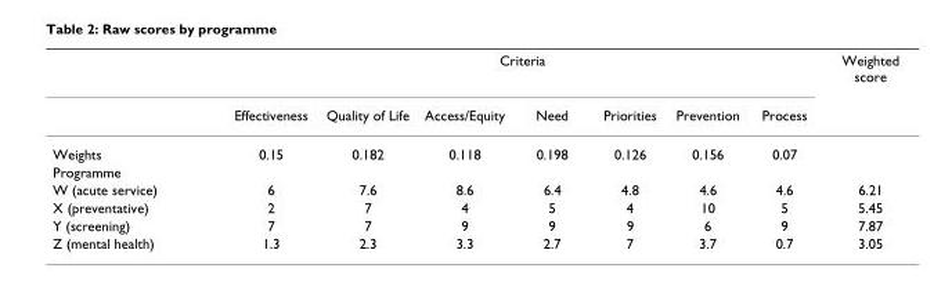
<table><thead><tr><td rowspan="2"></td><td colspan="7">Criteria</td><td rowspan="2">Weighted score</td></tr><tr><td>Effectiveness</td><td>Quality of Life</td><td>Access/Equity</td><td>Need</td><td>Priorities</td><td>Prevention</td><td>Process</td></tr></thead><tbody><tr><td>Weights</td><td>0.15</td><td>0.182</td><td>0.118</td><td>0.198</td><td>0.126</td><td>0.156</td><td>0.07</td><td></td></tr><tr><td colspan="9">Programme</td></tr><tr><td>W (acute service)</td><td>6</td><td>7.6</td><td>8.6</td><td>6.4</td><td>4.8</td><td>4.6</td><td>4.6</td><td>6.21</td></tr><tr><td>X (preventative)</td><td>2</td><td>7</td><td>4</td><td>5</td><td>4</td><td>10</td><td>5</td><td>5.45</td></tr><tr><td>Y (screening)</td><td>7</td><td>7</td><td>9</td><td>9</td><td>9</td><td>6</td><td>9</td><td>7.87</td></tr><tr><td>Z (mental health)</td><td>1.3</td><td>2.3</td><td>3.3</td><td>2.7</td><td>7</td><td>3.7</td><td>0.7</td><td>3.05</td></tr></tbody></table>